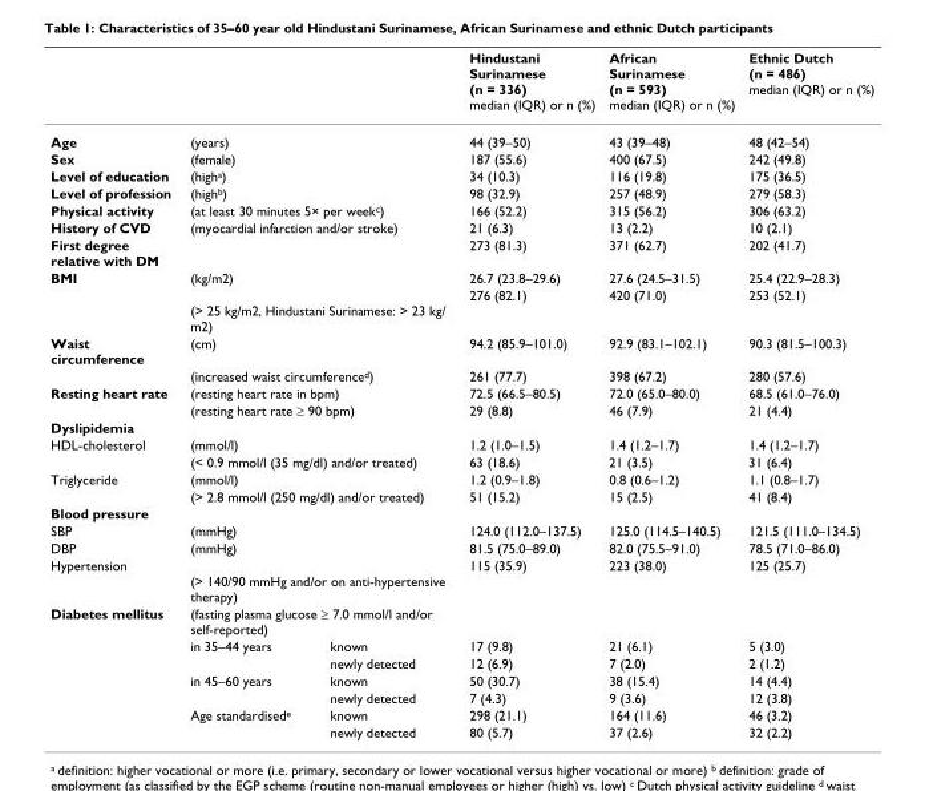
<table><thead><tr><td></td><td></td><td></td><td>Hindustani Surinamese (n = 336) median (IQR) or n (%)</td><td>African Surinamese (n = 593) median (IQR) or n (%)</td><td>Ethnic Dutch (n = 486) median (IQR) or n (%)</td></tr></thead><tbody><tr><td>Age</td><td colspan="2">(years)</td><td>44 (39–50)</td><td>43 (39–48)</td><td>48 (42–54)</td></tr><tr><td>Sex</td><td colspan="2">(female)</td><td>187 (55.6)</td><td>400 (67.5)</td><td>242 (49.8)</td></tr><tr><td>Level of education</td><td colspan="2">(high<sup>a</sup>)</td><td>34 (10.3)</td><td>116 (19.8)</td><td>175 (36.5)</td></tr><tr><td>Level of profession</td><td colspan="2">(high<sup>b</sup>)</td><td>98 (32.9)</td><td>257 (48.9)</td><td>279 (58.3)</td></tr><tr><td>Physical activity</td><td colspan="2">(at least 30 minutes 5× per week<sup>c</sup>)</td><td>166 (52.2)</td><td>315 (56.2)</td><td>306 (63.2)</td></tr><tr><td>History of CVD</td><td colspan="2">(myocardial infarction and/or stroke)</td><td>21 (6.3)</td><td>13 (2.2)</td><td>10 (2.1)</td></tr><tr><td>First degree relative with DM</td><td></td><td></td><td>273 (81.3)</td><td>371 (62.7)</td><td>202 (41.7)</td></tr><tr><td rowspan="2">BMI</td><td colspan="2">(kg/m2)</td><td>26.7 (23.8–29.6)</td><td>27.6 (24.5–31.5)</td><td>25.4 (22.9–28.3)</td></tr><tr><td colspan="2">(&gt; 25 kg/m2, Hindustani Surinamese: &gt; 23 kg/ m2)</td><td>276 (82.1)</td><td>420 (71.0)</td><td>253 (52.1)</td></tr><tr><td rowspan="2">Waist circumference</td><td colspan="2">(cm)</td><td>94.2 (85.9–101.0)</td><td>92.9 (83.1–102.1)</td><td>90.3 (81.5–100.3)</td></tr><tr><td colspan="2">(increased waist circumference<sup>d</sup>)</td><td>261 (77.7)</td><td>398 (67.2)</td><td>280 (57.6)</td></tr><tr><td rowspan="2">Resting heart rate</td><td colspan="2">(resting heart rate in bpm)</td><td>72.5 (66.5–80.5)</td><td>72.0 (65.0–80.0)</td><td>68.5 (61.0–76.0)</td></tr><tr><td colspan="2">(resting heart rate ≥ 90 bpm)</td><td>29 (8.8)</td><td>46 (7.9)</td><td>21 (4.4)</td></tr><tr><td colspan="6">Dyslipidemia</td></tr><tr><td rowspan="2">HDL-cholesterol</td><td colspan="2">(mmol/l)</td><td>1.2 (1.0–1.5)</td><td>1.4 (1.2–1.7)</td><td>1.4 (1.2–1.7)</td></tr><tr><td colspan="2">(&lt; 0.9 mmol/l (35 mg/dl) and/or treated)</td><td>63 (18.6)</td><td>21 (3.5)</td><td>31 (6.4)</td></tr><tr><td rowspan="2">Triglyceride</td><td colspan="2">(mmol/l)</td><td>1.2 (0.9–1.8)</td><td>0.8 (0.6–1.2)</td><td>1.1 (0.8–1.7)</td></tr><tr><td colspan="2">(&gt; 2.8 mmol/l (250 mg/dl) and/or treated)</td><td>51 (15.2)</td><td>15 (2.5)</td><td>41 (8.4)</td></tr><tr><td colspan="6">Blood pressure</td></tr><tr><td>SBP</td><td colspan="2">(mmHg)</td><td>124.0 (112.0–137.5)</td><td>125.0 (114.5–140.5)</td><td>121.5 (111.0–134.5)</td></tr><tr><td>DBP</td><td colspan="2">(mmHg)</td><td>81.5 (75.0–89.0)</td><td>82.0 (75.5–91.0)</td><td>78.5 (71.0–86.0)</td></tr><tr><td>Hypertension</td><td colspan="2">(&gt; 140/90 mmHg and/or on anti-hypertensive therapy)</td><td>115 (35.9)</td><td>223 (38.0)</td><td>125 (25.7)</td></tr><tr><td rowspan="7">Diabetes mellitus</td><td colspan="2">(fasting plasma glucose ≥ 7.0 mmol/l and/or self-reported)</td><td></td><td></td><td></td></tr><tr><td>in 35–44 years</td><td>known</td><td>17 (9.8)</td><td>21 (6.1)</td><td>5 (3.0)</td></tr><tr><td></td><td>newly detected</td><td>12 (6.9)</td><td>7 (2.0)</td><td>2 (1.2)</td></tr><tr><td>in 45–60 years</td><td>known</td><td>50 (30.7)</td><td>38 (15.4)</td><td>14 (4.4)</td></tr><tr><td></td><td>newly detected</td><td>7 (4.3)</td><td>9 (3.6)</td><td>12 (3.8)</td></tr><tr><td>Age standardised<sup>e</sup></td><td>known</td><td>298 (21.1)</td><td>164 (11.6)</td><td>46 (3.2)</td></tr><tr><td></td><td>newly detected</td><td>80 (5.7)</td><td>37 (2.6)</td><td>32 (2.2)</td></tr></tbody></table>